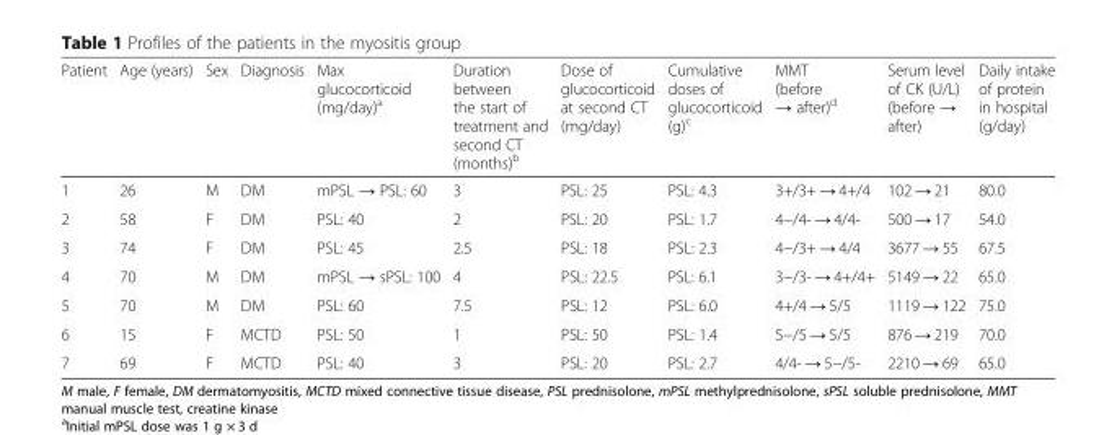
<table><thead><tr><td>Patient</td><td>Age (years)</td><td>Sex</td><td>Diagnosis</td><td>Max glucocorticoid (mg/day)<sup>a</sup></td><td>Duration between the start of treatment and second CT (months)<sup>b</sup></td><td>Dose of glucocorticoid at second CT (mg/day)</td><td>Cumulative doses of glucocorticoid (g)<sup>c</sup></td><td>MMT (before → after)<sup>d</sup></td><td>Serum level of CK (U/L) (before → after)</td><td>Daily intake of protein in hospital (g/day)</td></tr></thead><tbody><tr><td>1</td><td>26</td><td>M</td><td>DM</td><td>mPSL → PSL: 60</td><td>3</td><td>PSL: 25</td><td>PSL: 4.3</td><td>3+/3+ → 4+/4</td><td>102 → 21</td><td>80.0</td></tr><tr><td>2</td><td>58</td><td>F</td><td>DM</td><td>PSL: 40</td><td>2</td><td>PSL: 20</td><td>PSL: 1.7</td><td>4−/4- → 4/4-</td><td>500 → 17</td><td>54.0</td></tr><tr><td>3</td><td>74</td><td>F</td><td>DM</td><td>PSL: 45</td><td>2.5</td><td>PSL: 18</td><td>PSL: 2.3</td><td>4−/3+ → 4/4</td><td>3677 → 55</td><td>67.5</td></tr><tr><td>4</td><td>70</td><td>M</td><td>DM</td><td>mPSL → sPSL: 100</td><td>4</td><td>PSL: 22.5</td><td>PSL: 6.1</td><td>3−/3- → 4+/4+</td><td>5149 → 22</td><td>65.0</td></tr><tr><td>5</td><td>70</td><td>M</td><td>DM</td><td>PSL: 60</td><td>7.5</td><td>PSL: 12</td><td>PSL: 6.0</td><td>4+/4 → 5/5</td><td>1119 → 122</td><td>75.0</td></tr><tr><td>6</td><td>15</td><td>F</td><td>MCTD</td><td>PSL: 50</td><td>1</td><td>PSL: 50</td><td>PSL: 1.4</td><td>5−/5 → 5/5</td><td>876 → 219</td><td>70.0</td></tr><tr><td>7</td><td>69</td><td>F</td><td>MCTD</td><td>PSL: 40</td><td>3</td><td>PSL: 20</td><td>PSL: 2.7</td><td>4/4- → 5−/5-</td><td>2210 → 69</td><td>65.0</td></tr></tbody></table>